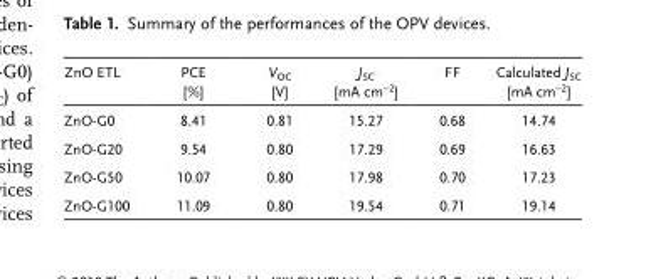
<table><thead><tr><td>ZnO ETL</td><td>PCE [%]</td><td>V<sub>OC</sub> [V]</td><td>J<sub>SC</sub> [mA cm<sup>−2</sup>]</td><td>FF</td><td>Calculated J<sub>SC</sub> [mA cm<sup>−2</sup>]</td></tr></thead><tbody><tr><td>ZnO-G0</td><td>8.41</td><td>0.81</td><td>15.27</td><td>0.68</td><td>14.74</td></tr><tr><td>ZnO-G20</td><td>9.54</td><td>0.80</td><td>17.29</td><td>0.69</td><td>16.63</td></tr><tr><td>ZnO-G50</td><td>10.07</td><td>0.80</td><td>17.98</td><td>0.70</td><td>17.23</td></tr><tr><td>ZnO-G100</td><td>11.09</td><td>0.80</td><td>19.54</td><td>0.71</td><td>19.14</td></tr></tbody></table>